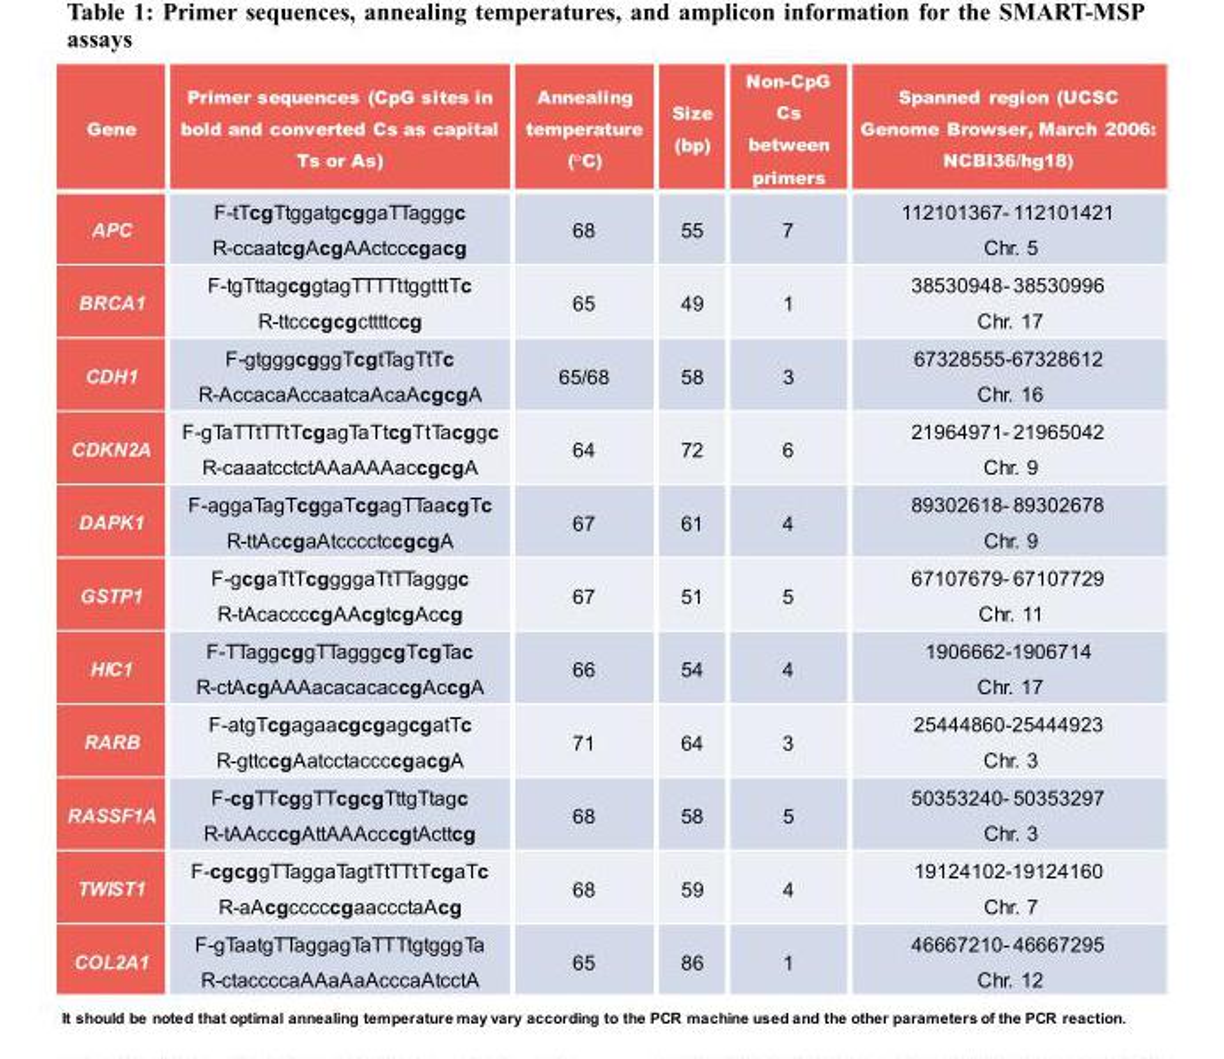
<table><thead><tr><td>Gene</td><td>Primer sequences (CpG sites in bold and converted Cs as capital Ts or As)</td><td>Annealing temperature (°C)</td><td>Size (bp)</td><td>Non-CpG Cs between primers</td><td>Spanned region (UCSC Genome Browser, March 2006: NCBI36/hg18)</td></tr></thead><tbody><tr><td>APC</td><td>F-tTcgTtggatgcggaTTagggc R-ccaatcgAcgAActcccgacg</td><td>68</td><td>55</td><td>7</td><td>112101367- 112101421 Chr. 5</td></tr><tr><td>BRCA1</td><td>F-tgTttagcggtagTTTTttggtttTc R-ttcccgcgcttttccg</td><td>65</td><td>49</td><td>1</td><td>38530948- 38530996 Chr. 17</td></tr><tr><td>CDH1</td><td>F-gtgggcgggTcgtTagTtTc R-AccacaAccaatcaAcaAcgcgA</td><td>65/68</td><td>58</td><td>3</td><td>67328555-67328612 Chr. 16</td></tr><tr><td>CDKN2A</td><td>F-gTaTTtTTtTcgagTaTtcgTtTacggc R-caaatcctctAAaAAAaccgcgA</td><td>64</td><td>72</td><td>6</td><td>21964971- 21965042 Chr. 9</td></tr><tr><td>DAPK1</td><td>F-aggaTagTcggaTcgagTTaacgTc R-ttAccgaAtcccctccgcgA</td><td>67</td><td>61</td><td>4</td><td>89302618- 89302678 Chr. 9</td></tr><tr><td>GSTP1</td><td>F-gcgaTtTcggggaTtTTagggc R-tAcaccccgAAcgtcgAccg</td><td>67</td><td>51</td><td>5</td><td>67107679- 67107729 Chr. 11</td></tr><tr><td>HIC1</td><td>F-TTaggcggTTagggcgTcgTac R-ctAcgAAAacacacaccgAccgA</td><td>66</td><td>54</td><td>4</td><td>1906662-1906714 Chr. 17</td></tr><tr><td>RARB</td><td>F-atgTcgagaacgcgagcgatTc R-gttccgAatcctaccccgacgA</td><td>71</td><td>64</td><td>3</td><td>25444860-25444923 Chr. 3</td></tr><tr><td>RASSF1A</td><td>F-cgTTcggTTcgcgTttgTtagc R-tAAcccgAttAAAcccgtActtcg</td><td>68</td><td>58</td><td>5</td><td>50353240- 50353297 Chr. 3</td></tr><tr><td>TWIST1</td><td>F-cgcggTTaggaTagtTtTTtTcgaTc R-aAcgcccccgaaccctaAcg</td><td>68</td><td>59</td><td>4</td><td>19124102-19124160 Chr. 7</td></tr><tr><td>COL2A1</td><td>F-gTaatgTTaggagTaTTTtgtgggTa R-ctaccccaAAaAaAcccaAtcctA</td><td>65</td><td>86</td><td>1</td><td>46667210- 46667295 Chr. 12</td></tr></tbody></table>